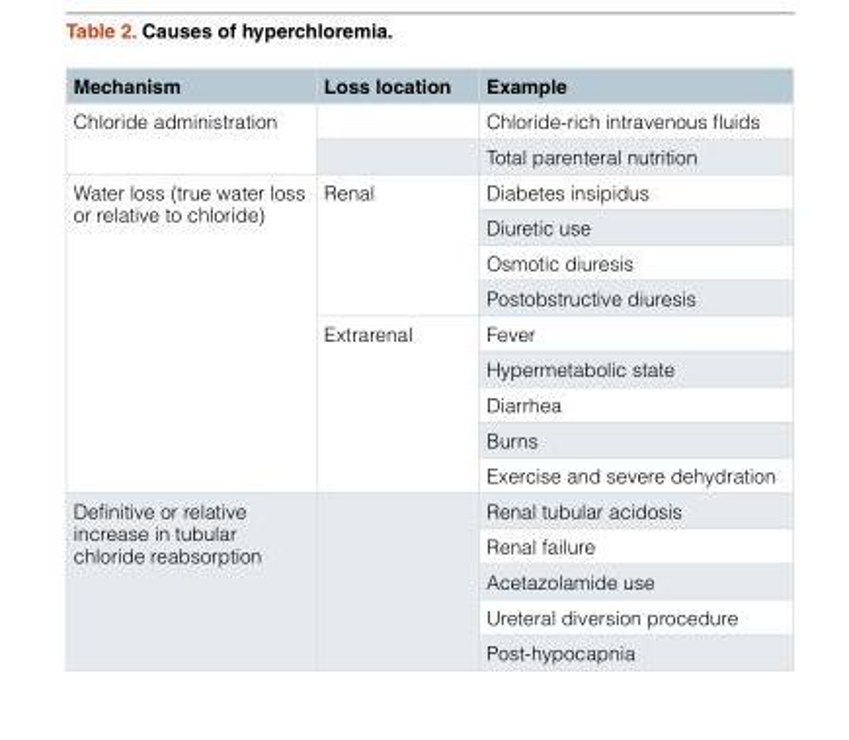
<table><thead><tr><td>Mechanism</td><td>Loss location</td><td>Example</td></tr></thead><tbody><tr><td rowspan="2">Chloride administration</td><td></td><td>Chloride-rich intravenous fluids</td></tr><tr><td></td><td>Total parenteral nutrition</td></tr><tr><td rowspan="9">Water loss (true water loss or relative to chloride)</td><td rowspan="4">Renal</td><td>Diabetes insipidus</td></tr><tr><td>Diuretic use</td></tr><tr><td>Osmotic diuresis</td></tr><tr><td>Postobstructive diuresis</td></tr><tr><td rowspan="5">Extrarenal</td><td>Fever</td></tr><tr><td>Hypermetabolic state</td></tr><tr><td>Diarrhea</td></tr><tr><td>Burns</td></tr><tr><td>Exercise and severe dehydration</td></tr><tr><td rowspan="5">Definitive or relative increase in tubular chloride reabsorption</td><td rowspan="5"></td><td>Renal tubular acidosis</td></tr><tr><td>Renal failure</td></tr><tr><td>Acetazolamide use</td></tr><tr><td>Ureteral diversion procedure</td></tr><tr><td>Post-hypocapnia</td></tr></tbody></table>